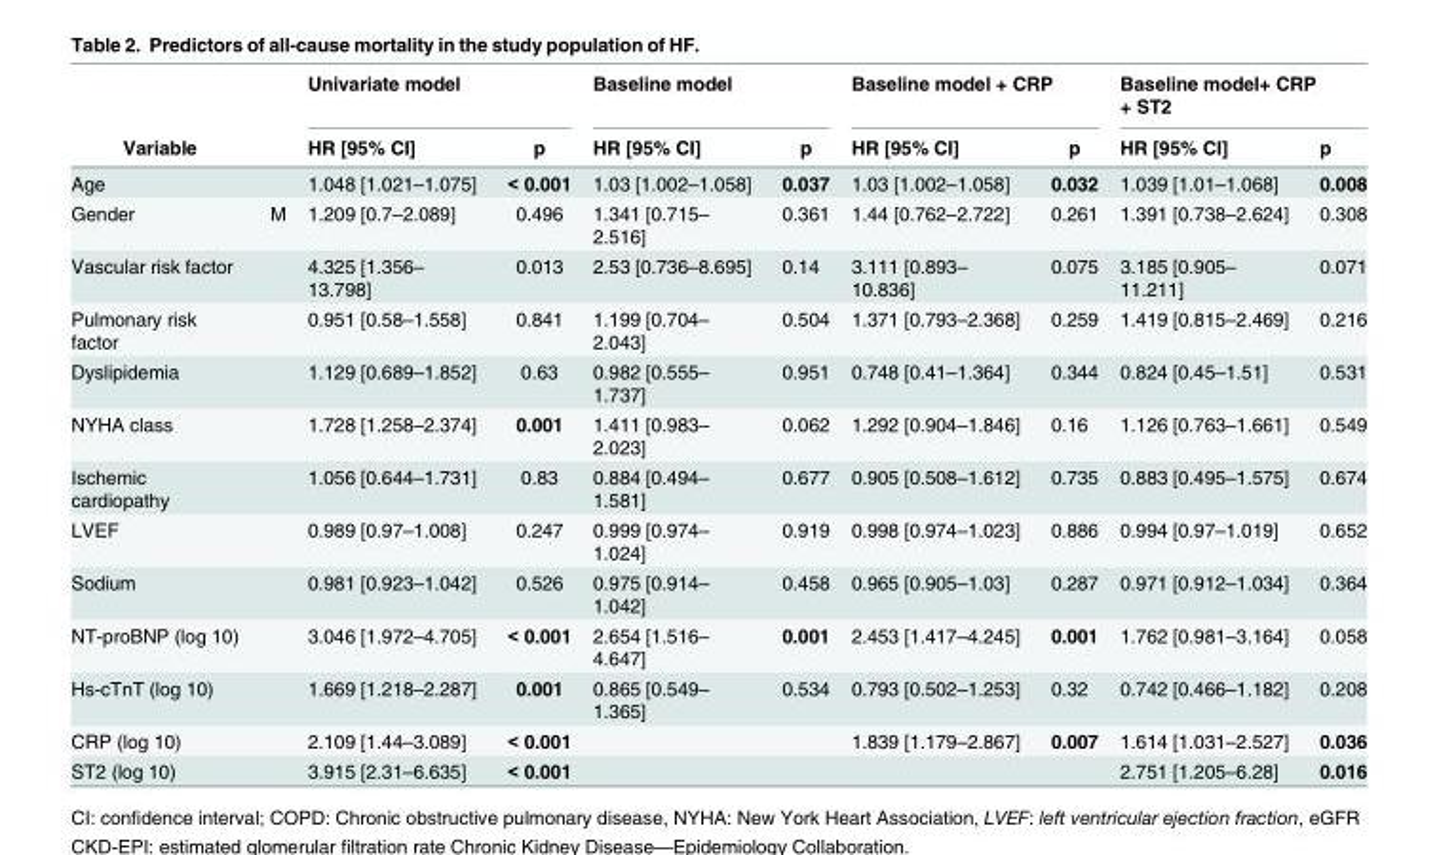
<table><thead><tr><td rowspan="2">Variable</td><td rowspan="2"></td><td colspan="2">Univariate model</td><td colspan="2">Baseline model</td><td colspan="2">Baseline model + CRP</td><td colspan="2">Baseline model+ CRP + ST2</td></tr><tr><td>HR [95% CI]</td><td>p</td><td>HR [95% CI]</td><td>p</td><td>HR [95% CI]</td><td>p</td><td>HR [95% CI]</td><td>p</td></tr></thead><tbody><tr><td>Age</td><td></td><td>1.048 [1.021–1.075]</td><td>&lt; 0.001</td><td>1.03 [1.002–1.058]</td><td>0.037</td><td>1.03 [1.002–1.058]</td><td>0.032</td><td>1.039 [1.01–1.068]</td><td>0.008</td></tr><tr><td>Gender</td><td>M</td><td>1.209 [0.7–2.089]</td><td>0.496</td><td>1.341 [0.715– 2.516]</td><td>0.361</td><td>1.44 [0.762–2.722]</td><td>0.261</td><td>1.391 [0.738–2.624]</td><td>0.308</td></tr><tr><td>Vascular risk factor</td><td></td><td>4.325 [1.356– 13.798]</td><td>0.013</td><td>2.53 [0.736–8.695]</td><td>0.14</td><td>3.111 [0.893– 10.836]</td><td>0.075</td><td>3.185 [0.905– 11.211]</td><td>0.071</td></tr><tr><td>Pulmonary risk factor</td><td></td><td>0.951 [0.58–1.558]</td><td>0.841</td><td>1.199 [0.704– 2.043]</td><td>0.504</td><td>1.371 [0.793–2.368]</td><td>0.259</td><td>1.419 [0.815–2.469]</td><td>0.216</td></tr><tr><td>Dyslipidemia</td><td></td><td>1.129 [0.689–1.852]</td><td>0.63</td><td>0.982 [0.555– 1.737]</td><td>0.951</td><td>0.748 [0.41–1.364]</td><td>0.344</td><td>0.824 [0.45–1.51]</td><td>0.531</td></tr><tr><td>NYHA class</td><td></td><td>1.728 [1.258–2.374]</td><td>0.001</td><td>1.411 [0.983– 2.023]</td><td>0.062</td><td>1.292 [0.904–1.846]</td><td>0.16</td><td>1.126 [0.763–1.661]</td><td>0.549</td></tr><tr><td>Ischemic cardiopathy</td><td></td><td>1.056 [0.644–1.731]</td><td>0.83</td><td>0.884 [0.494– 1.581]</td><td>0.677</td><td>0.905 [0.508–1.612]</td><td>0.735</td><td>0.883 [0.495–1.575]</td><td>0.674</td></tr><tr><td>LVEF</td><td></td><td>0.989 [0.97–1.008]</td><td>0.247</td><td>0.999 [0.974– 1.024]</td><td>0.919</td><td>0.998 [0.974–1.023]</td><td>0.886</td><td>0.994 [0.97–1.019]</td><td>0.652</td></tr><tr><td>Sodium</td><td></td><td>0.981 [0.923–1.042]</td><td>0.526</td><td>0.975 [0.914– 1.042]</td><td>0.458</td><td>0.965 [0.905–1.03]</td><td>0.287</td><td>0.971 [0.912–1.034]</td><td>0.364</td></tr><tr><td>NT-proBNP (log 10)</td><td></td><td>3.046 [1.972–4.705]</td><td>&lt; 0.001</td><td>2.654 [1.516– 4.647]</td><td>0.001</td><td>2.453 [1.417–4.245]</td><td>0.001</td><td>1.762 [0.981–3.164]</td><td>0.058</td></tr><tr><td>Hs-cTnT (log 10)</td><td></td><td>1.669 [1.218–2.287]</td><td>0.001</td><td>0.865 [0.549– 1.365]</td><td>0.534</td><td>0.793 [0.502–1.253]</td><td>0.32</td><td>0.742 [0.466–1.182]</td><td>0.208</td></tr><tr><td>CRP (log 10)</td><td></td><td>2.109 [1.44–3.089]</td><td>&lt; 0.001</td><td></td><td></td><td>1.839 [1.179–2.867]</td><td>0.007</td><td>1.614 [1.031–2.527]</td><td>0.036</td></tr><tr><td>ST2 (log 10)</td><td></td><td>3.915 [2.31–6.635]</td><td>&lt; 0.001</td><td></td><td></td><td></td><td></td><td>2.751 [1.205–6.28]</td><td>0.016</td></tr></tbody></table>